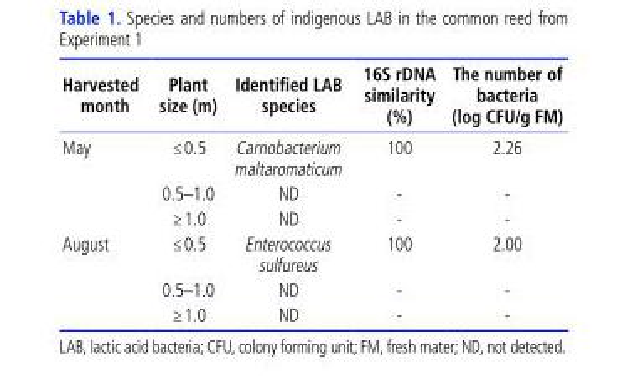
<table><thead><tr><td>Harvested month</td><td>Plant size (m)</td><td>Identified LAB species</td><td>16S rDNA similarity (%)</td><td>The number of bacteria (log CFU/g FM)</td></tr></thead><tbody><tr><td rowspan="3">May</td><td>≤0.5</td><td>Carnobacterium maltaromaticum</td><td>100</td><td>2.26</td></tr><tr><td>0.5–1.0</td><td>ND</td><td>-</td><td>-</td></tr><tr><td>≥1.0</td><td>ND</td><td>-</td><td>-</td></tr><tr><td rowspan="3">August</td><td>≤0.5</td><td>Enterococcus sulfureus</td><td>100</td><td>2.00</td></tr><tr><td>0.5–1.0</td><td>ND</td><td>-</td><td>-</td></tr><tr><td>≥1.0</td><td>ND</td><td>-</td><td>-</td></tr></tbody></table>